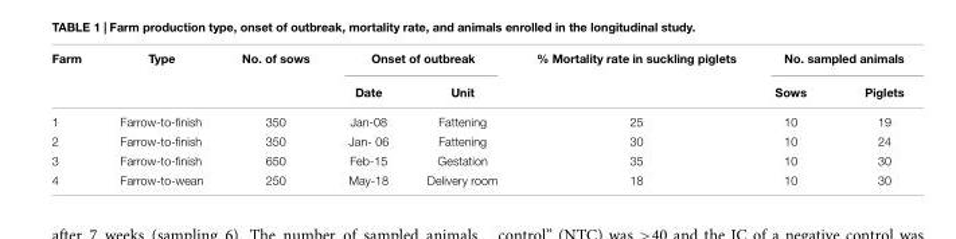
<table><thead><tr><td rowspan="2">Farm</td><td rowspan="2">Type</td><td rowspan="2">No. of sows</td><td colspan="2">Onset of outbreak</td><td rowspan="2">% Mortality rate in suckling piglets</td><td colspan="2">No. sampled animals</td></tr><tr><td>Date</td><td>Unit</td><td>Sows</td><td>Piglets</td></tr></thead><tbody><tr><td>1</td><td>Farrow-to-finish</td><td>350</td><td>Jan-08</td><td>Fattening</td><td>25</td><td>10</td><td>19</td></tr><tr><td>2</td><td>Farrow-to-finish</td><td>350</td><td>Jan- 06</td><td>Fattening</td><td>30</td><td>10</td><td>24</td></tr><tr><td>3</td><td>Farrow-to-finish</td><td>650</td><td>Feb-15</td><td>Gestation</td><td>35</td><td>10</td><td>30</td></tr><tr><td>4</td><td>Farrow-to-wean</td><td>250</td><td>May-18</td><td>Delivery room</td><td>18</td><td>10</td><td>30</td></tr></tbody></table>